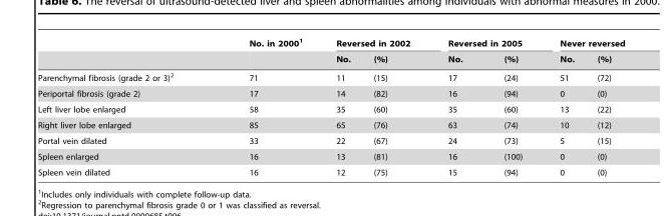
<table><thead><tr><td rowspan="2"></td><td rowspan="2">No. in 2000<sup>1</sup></td><td colspan="2">Reversed in 2002</td><td colspan="2">Reversed in 2005</td><td colspan="2">Never reversed</td></tr><tr><td>No.</td><td>(%)</td><td>No.</td><td>(%)</td><td>No.</td><td>(%)</td></tr></thead><tbody><tr><td>Parenchymal fibrosis (grade 2 or 3)<sup>2</sup></td><td>71</td><td>11</td><td>(15)</td><td>17</td><td>(24)</td><td>51</td><td>(72)</td></tr><tr><td>Periportal fibrosis (grade 2)</td><td>17</td><td>14</td><td>(82)</td><td>16</td><td>(94)</td><td>0</td><td>(0)</td></tr><tr><td>Left liver lobe enlarged</td><td>58</td><td>35</td><td>(60)</td><td>35</td><td>(60)</td><td>13</td><td>(22)</td></tr><tr><td>Right liver lobe enlarged</td><td>85</td><td>65</td><td>(76)</td><td>63</td><td>(74)</td><td>10</td><td>(12)</td></tr><tr><td>Portal vein dilated</td><td>33</td><td>22</td><td>(67)</td><td>24</td><td>(73)</td><td>5</td><td>(15)</td></tr><tr><td>Spleen enlarged</td><td>16</td><td>13</td><td>(81)</td><td>16</td><td>(100)</td><td>0</td><td>(0)</td></tr><tr><td>Spleen vein dilated</td><td>16</td><td>12</td><td>(75)</td><td>15</td><td>(94)</td><td>0</td><td>(0)</td></tr></tbody></table>